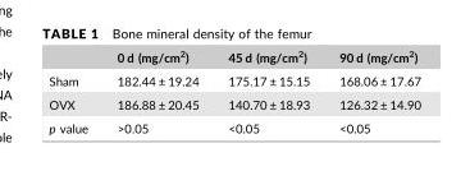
<table><thead><tr><td></td><td>0 d (mg/cm<sup>2</sup>)</td><td>45 d (mg/cm<sup>2</sup>)</td><td>90 d (mg/cm<sup>2</sup>)</td></tr></thead><tbody><tr><td>Sham</td><td>182.44 ± 19.24</td><td>175.17 ± 15.15</td><td>168.06 ± 17.67</td></tr><tr><td>OVX</td><td>186.88 ± 20.45</td><td>140.70 ± 18.93</td><td>126.32 ± 14.90</td></tr><tr><td>p value</td><td>&gt;0.05</td><td>&lt;0.05</td><td>&lt;0.05</td></tr></tbody></table>